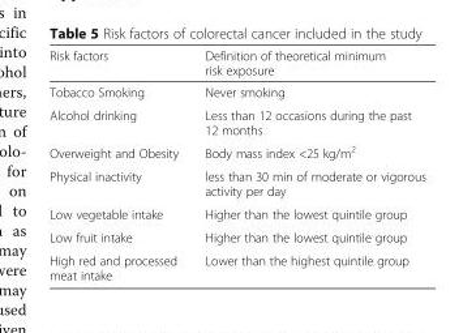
<table><thead><tr><td>Risk factors</td><td>Definition of theoretical minimum risk exposure</td></tr></thead><tbody><tr><td>Tobacco Smoking</td><td>Never smoking</td></tr><tr><td>Alcohol drinking</td><td>Less than 12 occasions during the past 12 months</td></tr><tr><td>Overweight and Obesity</td><td>Body mass index &lt;25 kg/m<sup>2</sup></td></tr><tr><td>Physical inactivity</td><td>less than 30 min of moderate or vigorous activity per day</td></tr><tr><td>Low vegetable intake</td><td>Higher than the lowest quintile group</td></tr><tr><td>Low fruit intake</td><td>Higher than the lowest quintile group</td></tr><tr><td>High red and processed meat intake</td><td>Lower than the highest quintile group</td></tr></tbody></table>